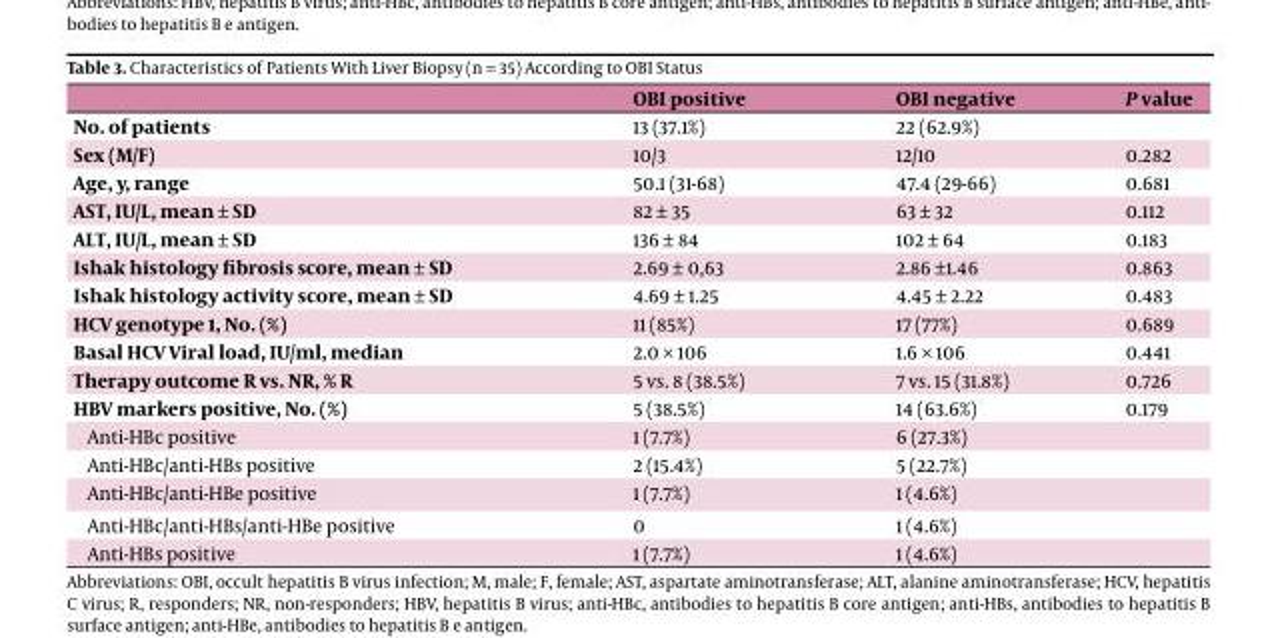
<table><thead><tr><td></td><td>OBI positive</td><td>OBI negative</td><td>P value</td></tr></thead><tbody><tr><td>No. of patients</td><td>13 (37.1%)</td><td>22 (62.9%)</td><td></td></tr><tr><td>Sex (M/F)</td><td>10/3</td><td>12/10</td><td>0.282</td></tr><tr><td>Age, y, range</td><td>50.1 (31-68)</td><td>47.4 (29-66)</td><td>0.681</td></tr><tr><td>AST, IU/L, mean ± SD</td><td>82 ± 35</td><td>63 ± 32</td><td>0.112</td></tr><tr><td>ALT, IU/L, mean ± SD</td><td>136 ± 84</td><td>102 ± 64</td><td>0.183</td></tr><tr><td>Ishak histology fibrosis score, mean ± SD</td><td>2.69 ± 0,63</td><td>2.86 ±1.46</td><td>0.863</td></tr><tr><td>Ishak histology activity score, mean ± SD</td><td>4.69 ± 1.25</td><td>4.45 ± 2.22</td><td>0.483</td></tr><tr><td>HCV genotype 1, No. (%)</td><td>11 (85%)</td><td>17 (77%)</td><td>0.689</td></tr><tr><td>Basal HCV Viral load, IU/ml, median</td><td>2.0 × 106</td><td>1.6 × 106</td><td>0.441</td></tr><tr><td>Therapy outcome R vs. NR, % R</td><td>5 vs. 8 (38.5%)</td><td>7 vs. 15 (31.8%)</td><td>0.726</td></tr><tr><td>HBV markers positive, No. (%)</td><td>5 (38.5%)</td><td>14 (63.6%)</td><td>0.179</td></tr><tr><td>Anti-HBc positive</td><td>1 (7.7%)</td><td>6 (27.3%)</td><td></td></tr><tr><td>Anti-HBc/anti-HBs positive</td><td>2 (15.4%)</td><td>5 (22.7%)</td><td></td></tr><tr><td>Anti-HBc/anti-HBe positive</td><td>1 (7.7%)</td><td>1 (4.6%)</td><td></td></tr><tr><td>Anti-HBc/anti-HBs/anti-HBe positive</td><td>0</td><td>1 (4.6%)</td><td></td></tr><tr><td>Anti-HBs positive</td><td>1 (7.7%)</td><td>1 (4.6%)</td><td></td></tr></tbody></table>